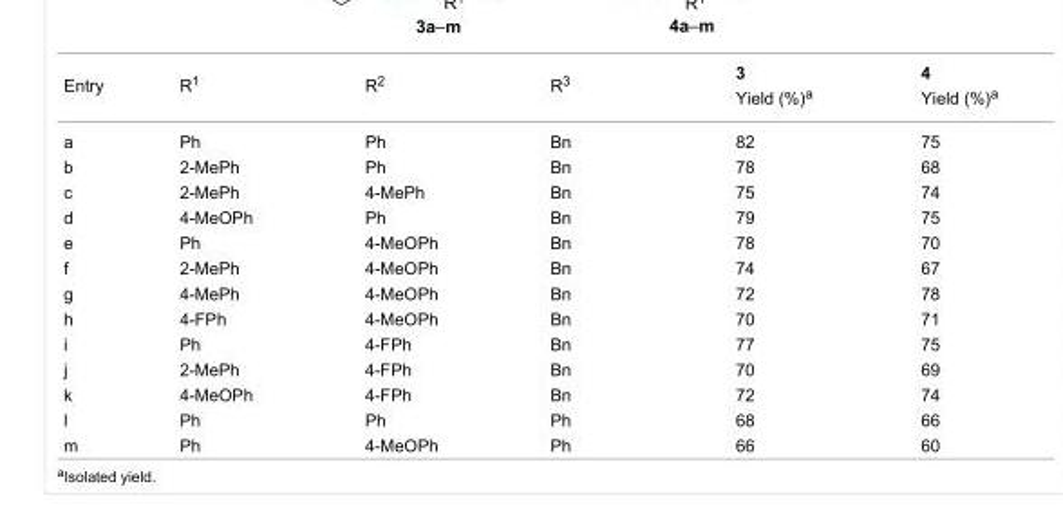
<table><tbody><tr><td rowspan="2">Entry</td><td rowspan="2">R<sup>1</sup></td><td rowspan="2">R<sup>2</sup></td><td rowspan="2">R<sup>3</sup></td><td>3</td><td>4</td></tr><tr><td>Yield (%)<sup>a</sup></td><td>Yield (%)<sup>a</sup></td></tr><tr><td>a</td><td>Ph</td><td>Ph</td><td>Bn</td><td>82</td><td>75</td></tr><tr><td>b</td><td>2-MePh</td><td>Ph</td><td>Bn</td><td>78</td><td>68</td></tr><tr><td>c</td><td>2-MePh</td><td>4-MePh</td><td>Bn</td><td>75</td><td>74</td></tr><tr><td>d</td><td>4-MeOPh</td><td>Ph</td><td>Bn</td><td>79</td><td>75</td></tr><tr><td>e</td><td>Ph</td><td>4-MeOPh</td><td>Bn</td><td>78</td><td>70</td></tr><tr><td>f</td><td>2-MePh</td><td>4-MeOPh</td><td>Bn</td><td>74</td><td>67</td></tr><tr><td>g</td><td>4-MePh</td><td>4-MeOPh</td><td>Bn</td><td>72</td><td>78</td></tr><tr><td>h</td><td>4-FPh</td><td>4-MeOPh</td><td>Bn</td><td>70</td><td>71</td></tr><tr><td>i</td><td>Ph</td><td>4-FPh</td><td>Bn</td><td>77</td><td>75</td></tr><tr><td>j</td><td>2-MePh</td><td>4-FPh</td><td>Bn</td><td>70</td><td>69</td></tr><tr><td>k</td><td>4-MeOPh</td><td>4-FPh</td><td>Bn</td><td>72</td><td>74</td></tr><tr><td>l</td><td>Ph</td><td>Ph</td><td>Ph</td><td>68</td><td>66</td></tr><tr><td>m</td><td>Ph</td><td>4-MeOPh</td><td>Ph</td><td>66</td><td>60</td></tr></tbody></table>